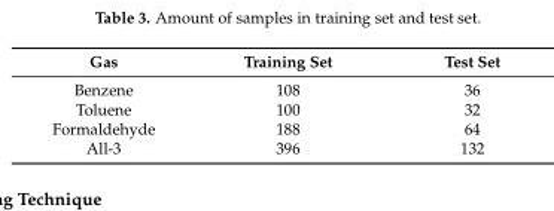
<table><thead><tr><td>Gas</td><td>Training Set</td><td>Test Set</td></tr></thead><tbody><tr><td>Benzene</td><td>108</td><td>36</td></tr><tr><td>Toluene</td><td>100</td><td>32</td></tr><tr><td>Formaldehyde</td><td>188</td><td>64</td></tr><tr><td>All-3</td><td>396</td><td>132</td></tr></tbody></table>